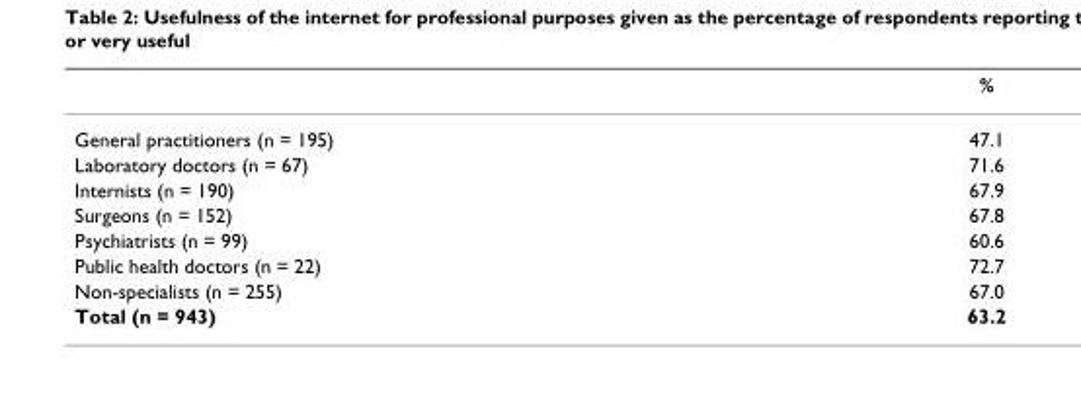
<table><thead><tr><td></td><td>%</td></tr></thead><tbody><tr><td>General practitioners (n = 195)</td><td>47.1</td></tr><tr><td>Laboratory doctors (n = 67)</td><td>71.6</td></tr><tr><td>Internists (n = 190)</td><td>67.9</td></tr><tr><td>Surgeons (n = 152)</td><td>67.8</td></tr><tr><td>Psychiatrists (n = 99)</td><td>60.6</td></tr><tr><td>Public health doctors (n = 22)</td><td>72.7</td></tr><tr><td>Non-specialists (n = 255)</td><td>67.0</td></tr><tr><td>Total (n = 943)</td><td>63.2</td></tr></tbody></table>